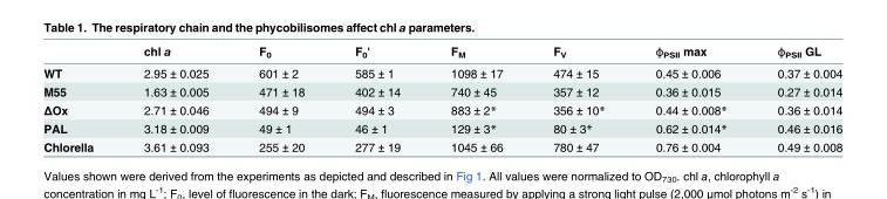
<table><thead><tr><td></td><td>chl a</td><td>F<sub>0</sub></td><td>F<sub>0</sub>&#x27;</td><td>F<sub>M</sub></td><td>F<sub>V</sub></td><td>ϕ<sub>PSII</sub> max</td><td>ϕ<sub>PSII</sub> GL</td></tr></thead><tbody><tr><td>WT</td><td>2.95 ± 0.025</td><td>601 ± 2</td><td>585 ± 1</td><td>1098 ± 17</td><td>474 ± 15</td><td>0.45 ± 0.006</td><td>0.37 ± 0.004</td></tr><tr><td>M55</td><td>1.63 ± 0.005</td><td>471 ± 18</td><td>402 ± 14</td><td>740 ± 45</td><td>357 ± 12</td><td>0.36 ± 0.015</td><td>0.27 ± 0.014</td></tr><tr><td>ΔOx</td><td>2.71 ± 0.046</td><td>494 ± 9</td><td>494 ± 3</td><td>883 ± 2*</td><td>356 ± 10*</td><td>0.44 ± 0.008*</td><td>0.36 ± 0.014</td></tr><tr><td>PAL</td><td>3.18 ± 0.009</td><td>49 ± 1</td><td>46 ± 1</td><td>129 ± 3*</td><td>80 ± 3*</td><td>0.62 ± 0.014*</td><td>0.46 ± 0.016</td></tr><tr><td>Chlorella</td><td>3.61 ± 0.093</td><td>255 ± 20</td><td>277 ± 19</td><td>1045 ± 66</td><td>780 ± 47</td><td>0.76 ± 0.004</td><td>0.49 ± 0.008</td></tr></tbody></table>